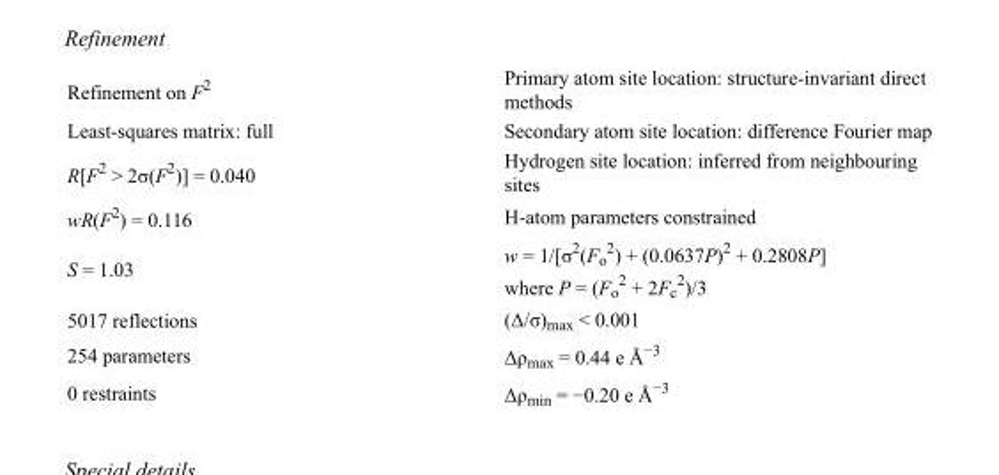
<table><tbody><tr><td>Refinement on F<sup>2</sup></td><td>Primary atom site location: structure-invariant direct methods</td></tr><tr><td>Least-squares matrix: full</td><td>Secondary atom site location: difference Fourier map</td></tr><tr><td>R[F<sup>2</sup> &gt; 2σ(F<sup>2</sup>)] = 0.040</td><td>Hydrogen site location: inferred from neighbouring sites</td></tr><tr><td>wR(F<sup>2</sup>) = 0.116</td><td>H-atom parameters constrained</td></tr><tr><td>S = 1.03</td><td>w = 1/[σ<sup>2</sup>(F<sub>o</sub> <sup>2</sup>) + (0.0637P)<sup>2</sup> + 0.2808P] where P = (F<sub>o</sub> <sup>2</sup> + 2F<sub>c</sub> <sup>2</sup>)/3</td></tr><tr><td>5017 reflections</td><td>(Δ/σ)<sub>max</sub> &lt; 0.001</td></tr><tr><td>254 parameters</td><td>Δρ<sub>max</sub> = 0.44 e Å<sup>−3</sup></td></tr><tr><td>0 restraints</td><td>Δρ<sub>min</sub> = −0.20 e Å<sup>−3</sup></td></tr></tbody></table>